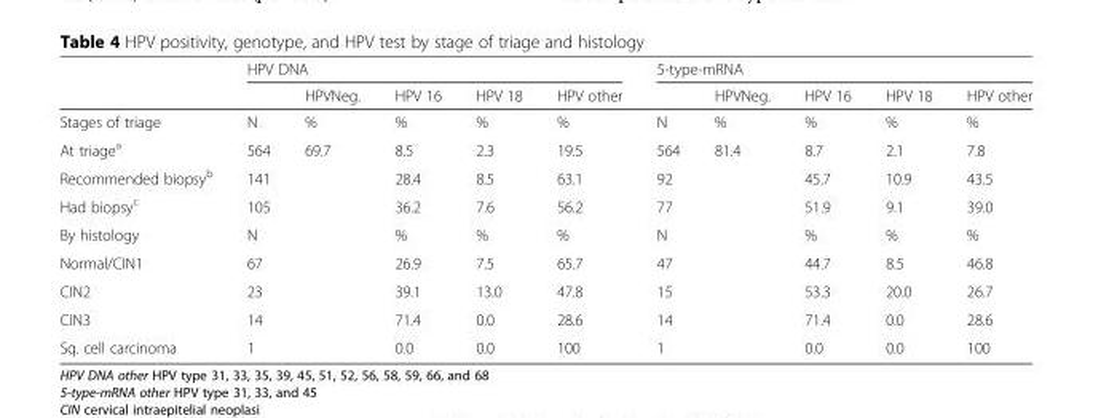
<table><thead><tr><td rowspan="2"></td><td colspan="5">HPV DNA</td><td colspan="5">5-type-mRNA</td></tr><tr><td></td><td>HPVNeg.</td><td>HPV 16</td><td>HPV 18</td><td>HPV other</td><td></td><td>HPVNeg.</td><td>HPV 16</td><td>HPV 18</td><td>HPV other</td></tr></thead><tbody><tr><td>Stages of triage</td><td>N</td><td>%</td><td>%</td><td>%</td><td>%</td><td>N</td><td>%</td><td>%</td><td>%</td><td>%</td></tr><tr><td>At triage<sup>a</sup></td><td>564</td><td>69.7</td><td>8.5</td><td>2.3</td><td>19.5</td><td>564</td><td>81.4</td><td>8.7</td><td>2.1</td><td>7.8</td></tr><tr><td>Recommended biopsy<sup>b</sup></td><td>141</td><td></td><td>28.4</td><td>8.5</td><td>63.1</td><td>92</td><td></td><td>45.7</td><td>10.9</td><td>43.5</td></tr><tr><td>Had biopsy<sup>c</sup></td><td>105</td><td></td><td>36.2</td><td>7.6</td><td>56.2</td><td>77</td><td></td><td>51.9</td><td>9.1</td><td>39.0</td></tr><tr><td>By histology</td><td>N</td><td></td><td>%</td><td>%</td><td>%</td><td>N</td><td></td><td>%</td><td>%</td><td>%</td></tr><tr><td>Normal/CIN1</td><td>67</td><td></td><td>26.9</td><td>7.5</td><td>65.7</td><td>47</td><td></td><td>44.7</td><td>8.5</td><td>46.8</td></tr><tr><td>CIN2</td><td>23</td><td></td><td>39.1</td><td>13.0</td><td>47.8</td><td>15</td><td></td><td>53.3</td><td>20.0</td><td>26.7</td></tr><tr><td>CIN3</td><td>14</td><td></td><td>71.4</td><td>0.0</td><td>28.6</td><td>14</td><td></td><td>71.4</td><td>0.0</td><td>28.6</td></tr><tr><td>Sq. cell carcinoma</td><td>1</td><td></td><td>0.0</td><td>0.0</td><td>100</td><td>1</td><td></td><td>0.0</td><td>0.0</td><td>100</td></tr></tbody></table>